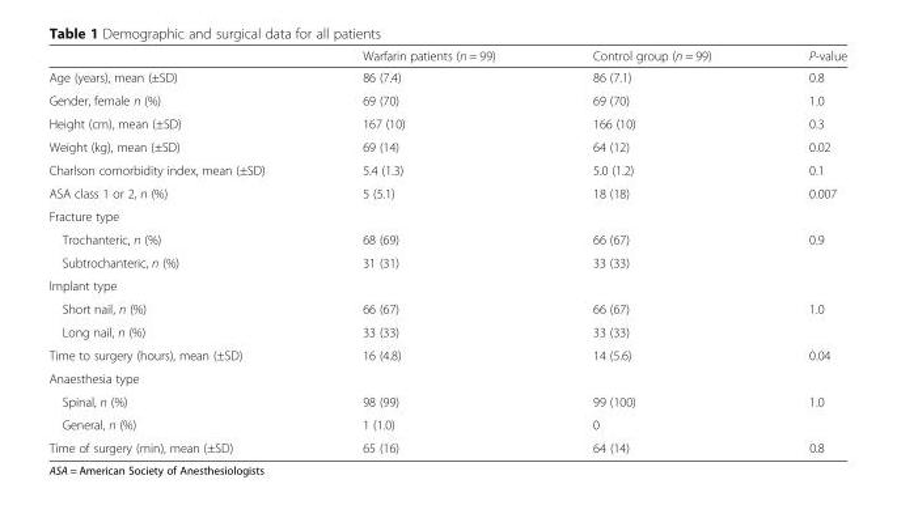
<table><thead><tr><td></td><td>Warfarin patients (n = 99)</td><td>Control group (n = 99)</td><td>P-value</td></tr></thead><tbody><tr><td>Age (years), mean (±SD)</td><td>86 (7.4)</td><td>86 (7.1)</td><td>0.8</td></tr><tr><td>Gender, female n (%)</td><td>69 (70)</td><td>69 (70)</td><td>1.0</td></tr><tr><td>Height (cm), mean (±SD)</td><td>167 (10)</td><td>166 (10)</td><td>0.3</td></tr><tr><td>Weight (kg), mean (±SD)</td><td>69 (14)</td><td>64 (12)</td><td>0.02</td></tr><tr><td>Charlson comorbidity index, mean (±SD)</td><td>5.4 (1.3)</td><td>5.0 (1.2)</td><td>0.1</td></tr><tr><td>ASA class 1 or 2, n (%)</td><td>5 (5.1)</td><td>18 (18)</td><td>0.007</td></tr><tr><td colspan="4">Fracture type</td></tr><tr><td>Trochanteric, n (%)</td><td>68 (69)</td><td>66 (67)</td><td>0.9</td></tr><tr><td>Subtrochanteric, n (%)</td><td>31 (31)</td><td>33 (33)</td><td></td></tr><tr><td colspan="4">Implant type</td></tr><tr><td>Short nail, n (%)</td><td>66 (67)</td><td>66 (67)</td><td>1.0</td></tr><tr><td>Long nail, n (%)</td><td>33 (33)</td><td>33 (33)</td><td></td></tr><tr><td>Time to surgery (hours), mean (±SD)</td><td>16 (4.8)</td><td>14 (5.6)</td><td>0.04</td></tr><tr><td colspan="4">Anaesthesia type</td></tr><tr><td>Spinal, n (%)</td><td>98 (99)</td><td>99 (100)</td><td>1.0</td></tr><tr><td>General, n (%)</td><td>1 (1.0)</td><td>0</td><td></td></tr><tr><td>Time of surgery (min), mean (±SD)</td><td>65 (16)</td><td>64 (14)</td><td>0.8</td></tr></tbody></table>